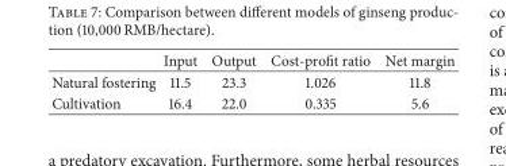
<table><thead><tr><td></td><td>Input</td><td>Output</td><td>Cost-profit ratio</td><td>Net margin</td></tr></thead><tbody><tr><td>Natural fostering</td><td>11.5</td><td>23.3</td><td>1.026</td><td>11.8</td></tr><tr><td>Cultivation</td><td>16.4</td><td>22.0</td><td>0.335</td><td>5.6</td></tr></tbody></table>